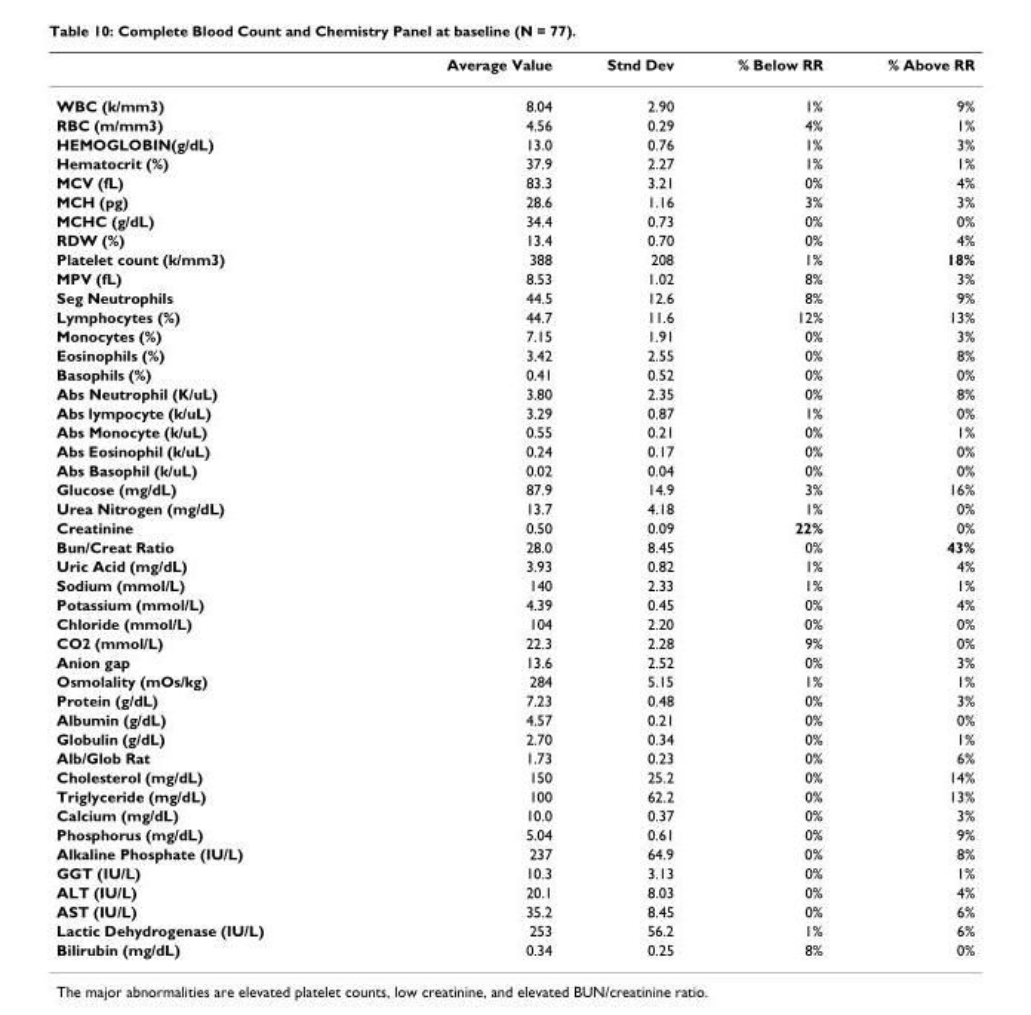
<table><thead><tr><td></td><td>Average Value</td><td>Stnd Dev</td><td>% Below RR</td><td>% Above RR</td></tr></thead><tbody><tr><td>WBC (k/mm3)</td><td>8.04</td><td>2.90</td><td>1%</td><td>9%</td></tr><tr><td>RBC (m/mm3)</td><td>4.56</td><td>0.29</td><td>4%</td><td>1%</td></tr><tr><td>HEMOGLOBIN(g/dL)</td><td>13.0</td><td>0.76</td><td>1%</td><td>3%</td></tr><tr><td>Hematocrit (%)</td><td>37.9</td><td>2.27</td><td>1%</td><td>1%</td></tr><tr><td>MCV (fL)</td><td>83.3</td><td>3.21</td><td>0%</td><td>4%</td></tr><tr><td>MCH (pg)</td><td>28.6</td><td>1.16</td><td>3%</td><td>3%</td></tr><tr><td>MCHC (g/dL)</td><td>34.4</td><td>0.73</td><td>0%</td><td>0%</td></tr><tr><td>RDW (%)</td><td>13.4</td><td>0.70</td><td>0%</td><td>4%</td></tr><tr><td>Platelet count (k/mm3)</td><td>388</td><td>208</td><td>1%</td><td>18%</td></tr><tr><td>MPV (fL)</td><td>8.53</td><td>1.02</td><td>8%</td><td>3%</td></tr><tr><td>Seg Neutrophils</td><td>44.5</td><td>12.6</td><td>8%</td><td>9%</td></tr><tr><td>Lymphocytes (%)</td><td>44.7</td><td>11.6</td><td>12%</td><td>13%</td></tr><tr><td>Monocytes (%)</td><td>7.15</td><td>1.91</td><td>0%</td><td>3%</td></tr><tr><td>Eosinophils (%)</td><td>3.42</td><td>2.55</td><td>0%</td><td>8%</td></tr><tr><td>Basophils (%)</td><td>0.41</td><td>0.52</td><td>0%</td><td>0%</td></tr><tr><td>Abs Neutrophil (K/uL)</td><td>3.80</td><td>2.35</td><td>0%</td><td>8%</td></tr><tr><td>Abs lympocyte (k/uL)</td><td>3.29</td><td>0.87</td><td>1%</td><td>0%</td></tr><tr><td>Abs Monocyte (k/uL)</td><td>0.55</td><td>0.21</td><td>0%</td><td>1%</td></tr><tr><td>Abs Eosinophil (k/uL)</td><td>0.24</td><td>0.17</td><td>0%</td><td>0%</td></tr><tr><td>Abs Basophil (k/uL)</td><td>0.02</td><td>0.04</td><td>0%</td><td>0%</td></tr><tr><td>Glucose (mg/dL)</td><td>87.9</td><td>14.9</td><td>3%</td><td>16%</td></tr><tr><td>Urea Nitrogen (mg/dL)</td><td>13.7</td><td>4.18</td><td>1%</td><td>0%</td></tr><tr><td>Creatinine</td><td>0.50</td><td>0.09</td><td>22%</td><td>0%</td></tr><tr><td>Bun/Creat Ratio</td><td>28.0</td><td>8.45</td><td>0%</td><td>43%</td></tr><tr><td>Uric Acid (mg/dL)</td><td>3.93</td><td>0.82</td><td>1%</td><td>4%</td></tr><tr><td>Sodium (mmol/L)</td><td>140</td><td>2.33</td><td>1%</td><td>1%</td></tr><tr><td>Potassium (mmol/L)</td><td>4.39</td><td>0.45</td><td>0%</td><td>4%</td></tr><tr><td>Chloride (mmol/L)</td><td>104</td><td>2.20</td><td>0%</td><td>0%</td></tr><tr><td>CO2 (mmol/L)</td><td>22.3</td><td>2.28</td><td>9%</td><td>0%</td></tr><tr><td>Anion gap</td><td>13.6</td><td>2.52</td><td>0%</td><td>3%</td></tr><tr><td>Osmolality (mOs/kg)</td><td>284</td><td>5.15</td><td>1%</td><td>1%</td></tr><tr><td>Protein (g/dL)</td><td>7.23</td><td>0.48</td><td>0%</td><td>3%</td></tr><tr><td>Albumin (g/dL)</td><td>4.57</td><td>0.21</td><td>0%</td><td>0%</td></tr><tr><td>Globulin (g/dL)</td><td>2.70</td><td>0.34</td><td>0%</td><td>1%</td></tr><tr><td>Alb/Glob Rat</td><td>1.73</td><td>0.23</td><td>0%</td><td>6%</td></tr><tr><td>Cholesterol (mg/dL)</td><td>150</td><td>25.2</td><td>0%</td><td>14%</td></tr><tr><td>Triglyceride (mg/dL)</td><td>100</td><td>62.2</td><td>0%</td><td>13%</td></tr><tr><td>Calcium (mg/dL)</td><td>10.0</td><td>0.37</td><td>0%</td><td>3%</td></tr><tr><td>Phosphorus (mg/dL)</td><td>5.04</td><td>0.61</td><td>0%</td><td>9%</td></tr><tr><td>Alkaline Phosphate (IU/L)</td><td>237</td><td>64.9</td><td>0%</td><td>8%</td></tr><tr><td>GGT (IU/L)</td><td>10.3</td><td>3.13</td><td>0%</td><td>1%</td></tr><tr><td>ALT (IU/L)</td><td>20.1</td><td>8.03</td><td>0%</td><td>4%</td></tr><tr><td>AST (IU/L)</td><td>35.2</td><td>8.45</td><td>0%</td><td>6%</td></tr><tr><td>Lactic Dehydrogenase (IU/L)</td><td>253</td><td>56.2</td><td>1%</td><td>6%</td></tr><tr><td>Bilirubin (mg/dL)</td><td>0.34</td><td>0.25</td><td>8%</td><td>0%</td></tr></tbody></table>